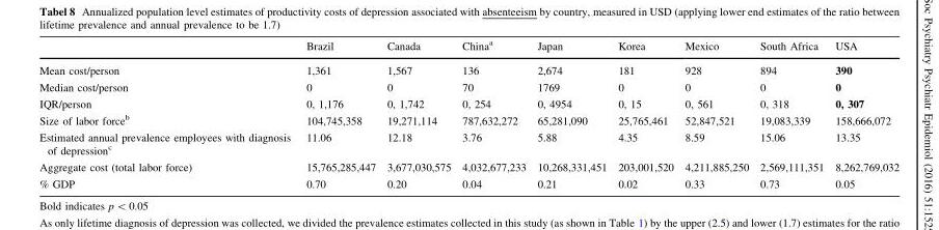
<table><thead><tr><td></td><td>Brazil</td><td>Canada</td><td>China<sup>a</sup></td><td>Japan</td><td>Korea</td><td>Mexico</td><td>South Africa</td><td>USA</td></tr></thead><tbody><tr><td>Mean cost/person</td><td>1,361</td><td>1,567</td><td>136</td><td>2,674</td><td>181</td><td>928</td><td>894</td><td>390</td></tr><tr><td>Median cost/person</td><td>0</td><td>0</td><td>70</td><td>1769</td><td>0</td><td>0</td><td>0</td><td>0</td></tr><tr><td>IQR/person</td><td>0, 1,176</td><td>0, 1,742</td><td>0, 254</td><td>0, 4954</td><td>0, 15</td><td>0, 561</td><td>0, 318</td><td>0, 307</td></tr><tr><td>Size of labor force<sup>b</sup></td><td>104,745,358</td><td>19,271,114</td><td>787,632,272</td><td>65,281,090</td><td>25,765,461</td><td>52,847,521</td><td>19,083,339</td><td>158,666,072</td></tr><tr><td>Estimated annual prevalence employees with diagnosis of depression<sup>c</sup></td><td>11.06</td><td>12.18</td><td>3.76</td><td>5.88</td><td>4.35</td><td>8.59</td><td>15.06</td><td>13.35</td></tr><tr><td>Aggregate cost (total labor force)</td><td>15,765,285,447</td><td>3,677,030,575</td><td>4,032,677,233</td><td>10,268,331,451</td><td>203,001,520</td><td>4,211,885,250</td><td>2,569,111,351</td><td>8,262,769,032</td></tr><tr><td>% GDP</td><td>0.70</td><td>0.20</td><td>0.04</td><td>0.21</td><td>0.02</td><td>0.33</td><td>0.73</td><td>0.05</td></tr></tbody></table>